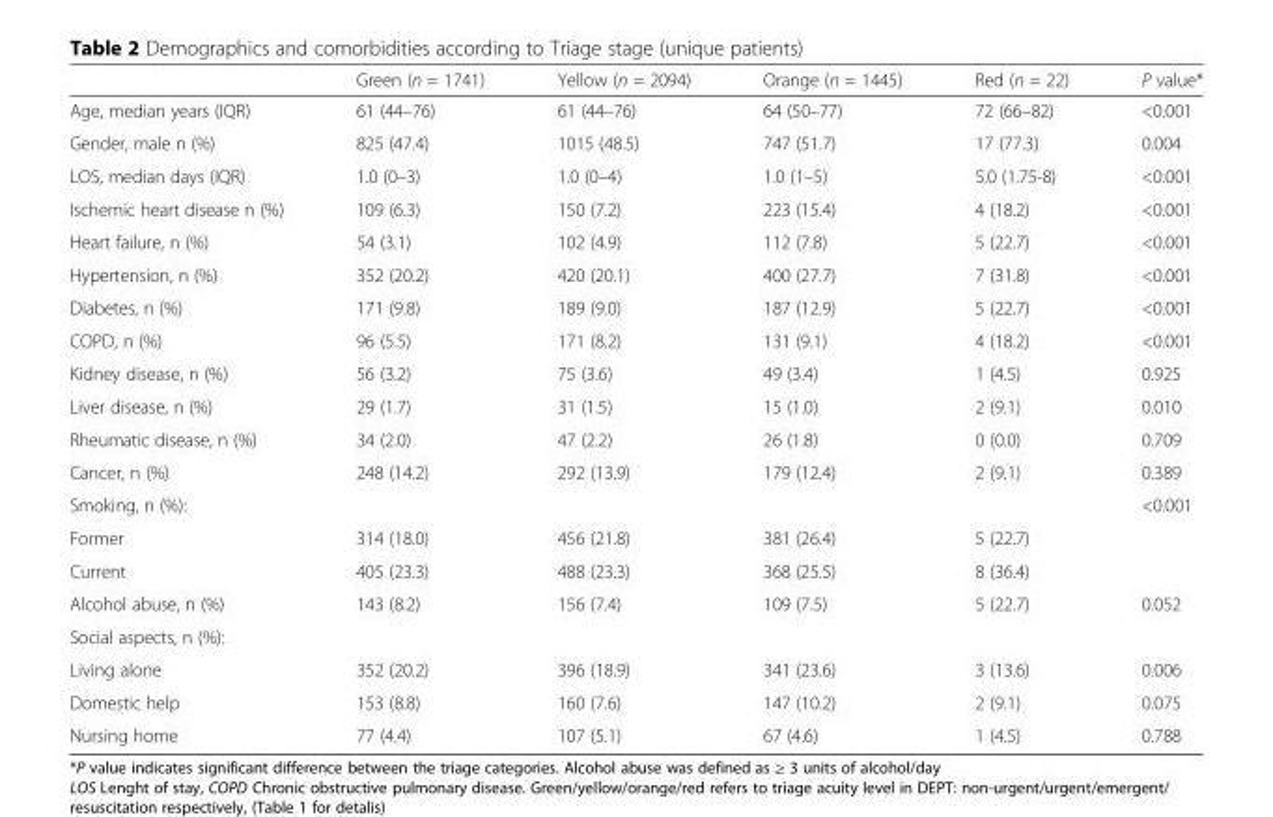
<table><thead><tr><td></td><td>Green (n = 1741)</td><td>Yellow (n = 2094)</td><td>Orange (n = 1445)</td><td>Red (n = 22)</td><td>P value*</td></tr></thead><tbody><tr><td>Age, median years (IQR)</td><td>61 (44–76)</td><td>61 (44–76)</td><td>64 (50–77)</td><td>72 (66–82)</td><td>&lt;0.001</td></tr><tr><td>Gender, male n (%)</td><td>825 (47.4)</td><td>1015 (48.5)</td><td>747 (51.7)</td><td>17 (77.3)</td><td>0.004</td></tr><tr><td>LOS, median days (IQR)</td><td>1.0 (0–3)</td><td>1.0 (0–4)</td><td>1.0 (1–5)</td><td>5.0 (1.75-8)</td><td>&lt;0.001</td></tr><tr><td>Ischemic heart disease n (%)</td><td>109 (6.3)</td><td>150 (7.2)</td><td>223 (15.4)</td><td>4 (18.2)</td><td>&lt;0.001</td></tr><tr><td>Heart failure, n (%)</td><td>54 (3.1)</td><td>102 (4.9)</td><td>112 (7.8)</td><td>5 (22.7)</td><td>&lt;0.001</td></tr><tr><td>Hypertension, n (%)</td><td>352 (20.2)</td><td>420 (20.1)</td><td>400 (27.7)</td><td>7 (31.8)</td><td>&lt;0.001</td></tr><tr><td>Diabetes, n (%)</td><td>171 (9.8)</td><td>189 (9.0)</td><td>187 (12.9)</td><td>5 (22.7)</td><td>&lt;0.001</td></tr><tr><td>COPD, n (%)</td><td>96 (5.5)</td><td>171 (8.2)</td><td>131 (9.1)</td><td>4 (18.2)</td><td>&lt;0.001</td></tr><tr><td>Kidney disease, n (%)</td><td>56 (3.2)</td><td>75 (3.6)</td><td>49 (3.4)</td><td>1 (4.5)</td><td>0.925</td></tr><tr><td>Liver disease, n (%)</td><td>29 (1.7)</td><td>31 (1.5)</td><td>15 (1.0)</td><td>2 (9.1)</td><td>0.010</td></tr><tr><td>Rheumatic disease, n (%)</td><td>34 (2.0)</td><td>47 (2.2)</td><td>26 (1.8)</td><td>0 (0.0)</td><td>0.709</td></tr><tr><td>Cancer, n (%)</td><td>248 (14.2)</td><td>292 (13.9)</td><td>179 (12.4)</td><td>2 (9.1)</td><td>0.389</td></tr><tr><td>Smoking, n (%):</td><td></td><td></td><td></td><td></td><td>&lt;0.001</td></tr><tr><td>Former</td><td>314 (18.0)</td><td>456 (21.8)</td><td>381 (26.4)</td><td>5 (22.7)</td><td></td></tr><tr><td>Current</td><td>405 (23.3)</td><td>488 (23.3)</td><td>368 (25.5)</td><td>8 (36.4)</td><td></td></tr><tr><td>Alcohol abuse, n (%)</td><td>143 (8.2)</td><td>156 (7.4)</td><td>109 (7.5)</td><td>5 (22.7)</td><td>0.052</td></tr><tr><td colspan="6">Social aspects, n (%):</td></tr><tr><td>Living alone</td><td>352 (20.2)</td><td>396 (18.9)</td><td>341 (23.6)</td><td>3 (13.6)</td><td>0.006</td></tr><tr><td>Domestic help</td><td>153 (8.8)</td><td>160 (7.6)</td><td>147 (10.2)</td><td>2 (9.1)</td><td>0.075</td></tr><tr><td>Nursing home</td><td>77 (4.4)</td><td>107 (5.1)</td><td>67 (4.6)</td><td>1 (4.5)</td><td>0.788</td></tr></tbody></table>